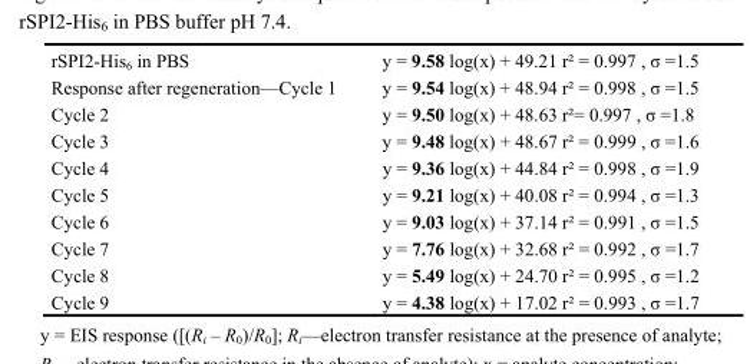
<table><tbody><tr><td>rSPI2-His<sub>6</sub> in PBS</td><td>y = 9.58 log(x) + 49.21 r² = 0.997 , σ =1.5</td></tr><tr><td>Response after regeneration—Cycle 1</td><td>y = 9.54 log(x) + 48.94 r² = 0.998 , σ =1.5</td></tr><tr><td>Cycle 2</td><td>y = 9.50 log(x) + 48.63 r²= 0.997 , σ =1.8</td></tr><tr><td>Cycle 3</td><td>y = 9.48 log(x) + 48.67 r² = 0.999 , σ =1.6</td></tr><tr><td>Cycle 4</td><td>y = 9.36 log(x) + 44.84 r² = 0.998 , σ =1.9</td></tr><tr><td>Cycle 5</td><td>y = 9.21 log(x) + 40.08 r² = 0.994 , σ =1.3</td></tr><tr><td>Cycle 6</td><td>y = 9.03 log(x) + 37.14 r² = 0.991 , σ =1.5</td></tr><tr><td>Cycle 7</td><td>y = 7.76 log(x) + 32.68 r² = 0.992 , σ =1.7</td></tr><tr><td>Cycle 8</td><td>y = 5.49 log(x) + 24.70 r² = 0.995 , σ =1.2</td></tr><tr><td>Cycle 9</td><td>y = 4.38 log(x) + 17.02 r² = 0.993 , σ =1.7</td></tr></tbody></table>